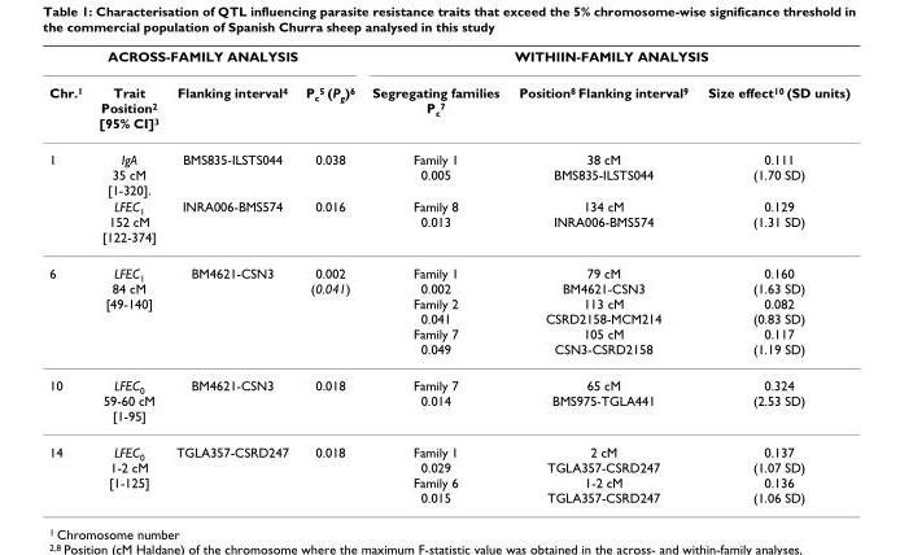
<table><thead><tr><td colspan="4">ACROSS-FAMILY ANALYSIS</td><td colspan="3">WITHIIN-FAMILY ANALYSIS</td></tr><tr><td>Chr.<sup>1</sup></td><td>Trait Position<sup>2</sup> [95% CI]<sup>3</sup></td><td>Flanking interval<sup>4</sup></td><td>P<sub>c</sub><sup>5</sup> (P<sub>g</sub>)<sup>6</sup></td><td>Segregating families P<sub>c</sub><sup>7</sup></td><td>Position<sup>8</sup> Flanking interval<sup>9</sup></td><td>Size effect<sup>10</sup> (SD units)</td></tr></thead><tbody><tr><td rowspan="2">1</td><td>IgA 35 cM [1-320].</td><td>BMS835-ILSTS044</td><td>0.038</td><td>Family 1 0.005</td><td>38 cM BMS835-ILSTS044</td><td>0.111 (1.70 SD)</td></tr><tr><td>LFEC<sub>1</sub> 152 cM [122-374]</td><td>INRA006-BMS574</td><td>0.016</td><td>Family 8 0.013</td><td>134 cM INRA006-BMS574</td><td>0.129 (1.31 SD)</td></tr><tr><td>6</td><td>LFEC<sub>1</sub> 84 cM [49-140]</td><td>BM4621-CSN3</td><td>0.002 (0.041)</td><td>Family 1 0.002 Family 2 0.041 Family 7 0.049</td><td>79 cM BM4621-CSN3 113 cM CSRD2158-MCM214 105 cM CSN3-CSRD2158</td><td>0.160 (1.63 SD) 0.082 (0.83 SD) 0.117 (1.19 SD)</td></tr><tr><td>10</td><td>LFEC<sub>0</sub> 59-60 cM [1-95]</td><td>BM4621-CSN3</td><td>0.018</td><td>Family 7 0.014</td><td>65 cM BMS975-TGLA441</td><td>0.324 (2.53 SD)</td></tr><tr><td>14</td><td>LFEC<sub>0</sub> 1-2 cM [1-125]</td><td>TGLA357-CSRD247</td><td>0.018</td><td>Family 1 0.029 Family 6 0.015</td><td>2 cM TGLA357-CSRD247 1-2 cM TGLA357-CSRD247</td><td>0.137 (1.07 SD) 0.136 (1.06 SD)</td></tr></tbody></table>